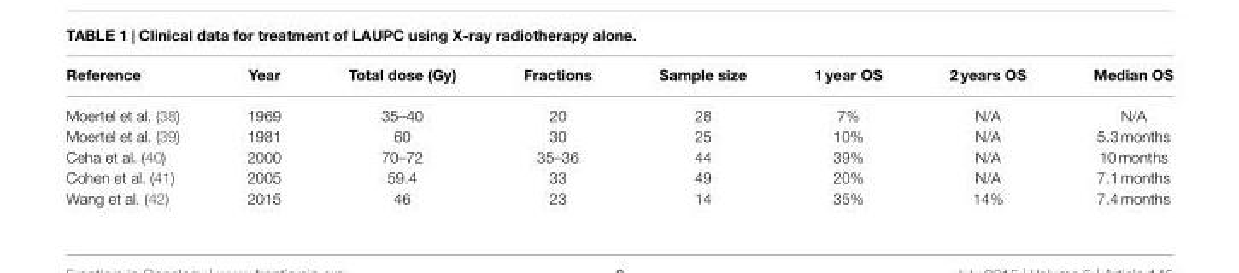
<table><thead><tr><td>Reference</td><td>Year</td><td>Total dose (Gy)</td><td>Fractions</td><td>Sample size</td><td>1 year OS</td><td>2 years OS</td><td>Median OS</td></tr></thead><tbody><tr><td>Moertel et al. (38)</td><td>1969</td><td>35–40</td><td>20</td><td>28</td><td>7%</td><td>N/A</td><td>N/A</td></tr><tr><td>Moertel et al. (39)</td><td>1981</td><td>60</td><td>30</td><td>25</td><td>10%</td><td>N/A</td><td>5.3 months</td></tr><tr><td>Ceha et al. (40)</td><td>2000</td><td>70–72</td><td>35–36</td><td>44</td><td>39%</td><td>N/A</td><td>10 months</td></tr><tr><td>Cohen et al. (41)</td><td>2005</td><td>59.4</td><td>33</td><td>49</td><td>20%</td><td>N/A</td><td>7.1 months</td></tr><tr><td>Wang et al. (42)</td><td>2015</td><td>46</td><td>23</td><td>14</td><td>35%</td><td>14%</td><td>7.4 months</td></tr></tbody></table>